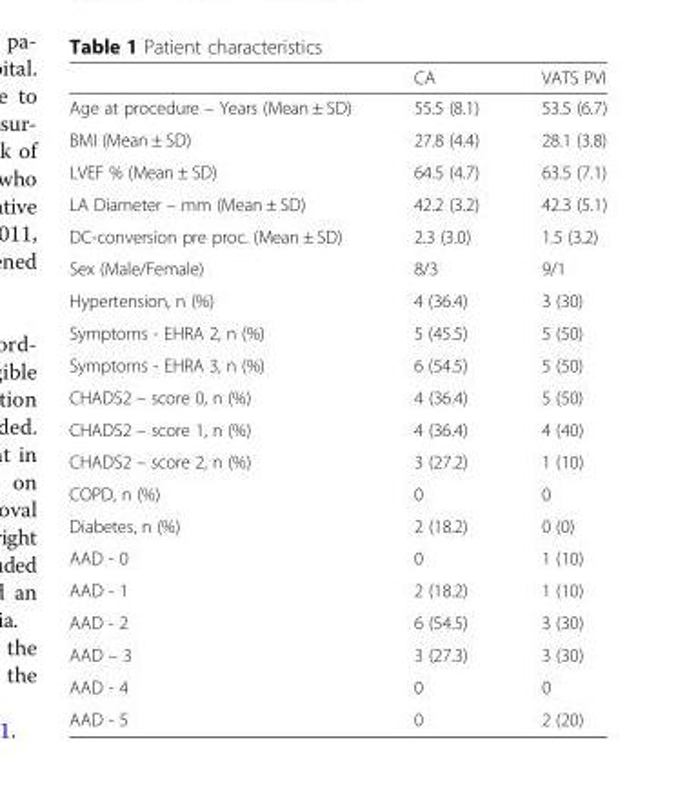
<table><thead><tr><td></td><td>CA</td><td>VATS PVI</td></tr></thead><tbody><tr><td>Age at procedure – Years (Mean ± SD)</td><td>55.5 (8.1)</td><td>53.5 (6.7)</td></tr><tr><td>BMI (Mean ± SD)</td><td>27.8 (4.4)</td><td>28.1 (3.8)</td></tr><tr><td>LVEF % (Mean ± SD)</td><td>64.5 (4.7)</td><td>63.5 (7.1)</td></tr><tr><td>LA Diameter – mm (Mean ± SD)</td><td>42.2 (3.2)</td><td>42.3 (5.1)</td></tr><tr><td>DC-conversion pre proc. (Mean ± SD)</td><td>2.3 (3.0)</td><td>1.5 (3.2)</td></tr><tr><td>Sex (Male/Female)</td><td>8/3</td><td>9/1</td></tr><tr><td>Hypertension, n (%)</td><td>4 (36.4)</td><td>3 (30)</td></tr><tr><td>Symptoms - EHRA 2, n (%)</td><td>5 (45.5)</td><td>5 (50)</td></tr><tr><td>Symptoms - EHRA 3, n (%)</td><td>6 (54.5)</td><td>5 (50)</td></tr><tr><td>CHADS2 – score 0, n (%)</td><td>4 (36.4)</td><td>5 (50)</td></tr><tr><td>CHADS2 – score 1, n (%)</td><td>4 (36.4)</td><td>4 (40)</td></tr><tr><td>CHADS2 – score 2, n (%)</td><td>3 (27.2)</td><td>1 (10)</td></tr><tr><td>COPD, n (%)</td><td>0</td><td>0</td></tr><tr><td>Diabetes, n (%)</td><td>2 (18.2)</td><td>0 (0)</td></tr><tr><td>AAD - 0</td><td>0</td><td>1 (10)</td></tr><tr><td>AAD - 1</td><td>2 (18.2)</td><td>1 (10)</td></tr><tr><td>AAD - 2</td><td>6 (54.5)</td><td>3 (30)</td></tr><tr><td>AAD – 3</td><td>3 (27.3)</td><td>3 (30)</td></tr><tr><td>AAD - 4</td><td>0</td><td>0</td></tr><tr><td>AAD - 5</td><td>0</td><td>2 (20)</td></tr></tbody></table>